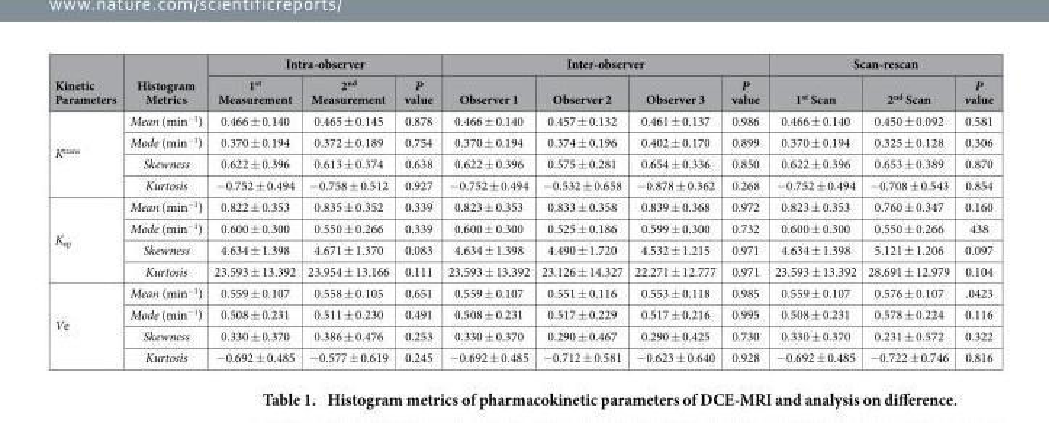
<table><thead><tr><td rowspan="2">Kinetic Parameters</td><td rowspan="2">Histogram Metrics</td><td colspan="3">Intra-observer</td><td colspan="4">Inter-observer</td><td colspan="3">Scan-rescan</td></tr><tr><td>1<sup>st</sup> Measurement</td><td>2<sup>nd</sup> Measurement</td><td>P value</td><td>Observer 1</td><td>Observer 2</td><td>Observer 3</td><td>P value</td><td>1<sup>st</sup> Scan</td><td>2<sup>nd</sup> Scan</td><td>P value</td></tr></thead><tbody><tr><td rowspan="4">K<sup>trans</sup></td><td>Mean (min<sup>−1</sup>)</td><td>0.466 ± 0.140</td><td>0.465 ± 0.145</td><td>0.878</td><td>0.466 ± 0.140</td><td>0.457 ± 0.132</td><td>0.461 ± 0.137</td><td>0.986</td><td>0.466 ± 0.140</td><td>0.450 ± 0.092</td><td>0.581</td></tr><tr><td>Mode (min<sup>−1</sup>)</td><td>0.370 ± 0.194</td><td>0.372 ± 0.189</td><td>0.754</td><td>0.370 ± 0.194</td><td>0.374 ± 0.196</td><td>0.402 ± 0.170</td><td>0.899</td><td>0.370 ± 0.194</td><td>0.325 ± 0.128</td><td>0.306</td></tr><tr><td>Skewness</td><td>0.622 ± 0.396</td><td>0.613 ± 0.374</td><td>0.638</td><td>0.622 ± 0.396</td><td>0.575 ± 0.281</td><td>0.654 ± 0.336</td><td>0.850</td><td>0.622 ± 0.396</td><td>0.653 ± 0.389</td><td>0.870</td></tr><tr><td>Kurtosis</td><td>− 0.752 ± 0.494</td><td>− 0.758 ± 0.512</td><td>0.927</td><td>− 0.752 ± 0.494</td><td>− 0.532 ± 0.658</td><td>− 0.878 ± 0.362</td><td>0.268</td><td>− 0.752 ± 0.494</td><td>− 0.708 ± 0.543</td><td>0.854</td></tr><tr><td rowspan="4">K<sub>ep</sub></td><td>Mean (min<sup>−1</sup>)</td><td>0.822 ± 0.353</td><td>0.835 ± 0.352</td><td>0.339</td><td>0.823 ± 0.353</td><td>0.833 ± 0.358</td><td>0.839 ± 0.368</td><td>0.972</td><td>0.823 ± 0.353</td><td>0.760 ± 0.347</td><td>0.160</td></tr><tr><td>Mode (min<sup>−1</sup>)</td><td>0.600 ± 0.300</td><td>0.550 ± 0.266</td><td>0.339</td><td>0.600 ± 0.300</td><td>0.525 ± 0.186</td><td>0.599 ± 0.300</td><td>0.732</td><td>0.600 ± 0.300</td><td>0.550 ± 0.266</td><td>438</td></tr><tr><td>Skewness</td><td>4.634 ± 1.398</td><td>4.671 ± 1.370</td><td>0.083</td><td>4.634 ± 1.398</td><td>4.490 ± 1.720</td><td>4.532 ± 1.215</td><td>0.971</td><td>4.634 ± 1.398</td><td>5.121 ± 1.206</td><td>0.097</td></tr><tr><td>Kurtosis</td><td>23.593 ± 13.392</td><td>23.954 ± 13.166</td><td>0.111</td><td>23.593 ± 13.392</td><td>23.126 ± 14.327</td><td>22.271 ± 12.777</td><td>0.971</td><td>23.593 ± 13.392</td><td>28.691 ± 12.979</td><td>0.104</td></tr><tr><td rowspan="4">Ve</td><td>Mean (min<sup>−1</sup>)</td><td>0.559 ± 0.107</td><td>0.558 ± 0.105</td><td>0.651</td><td>0.559 ± 0.107</td><td>0.551 ± 0.116</td><td>0.553 ± 0.118</td><td>0.985</td><td>0.559 ± 0.107</td><td>0.576 ± 0.107</td><td>.0423</td></tr><tr><td>Mode (min<sup>−1</sup>)</td><td>0.508 ± 0.231</td><td>0.511 ± 0.230</td><td>0.491</td><td>0.508 ± 0.231</td><td>0.517 ± 0.229</td><td>0.517 ± 0.216</td><td>0.995</td><td>0.508 ± 0.231</td><td>0.578 ± 0.224</td><td>0.116</td></tr><tr><td>Skewness</td><td>0.330 ± 0.370</td><td>0.386 ± 0.476</td><td>0.253</td><td>0.330 ± 0.370</td><td>0.290 ± 0.467</td><td>0.290 ± 0.425</td><td>0.730</td><td>0.330 ± 0.370</td><td>0.231 ± 0.572</td><td>0.322</td></tr><tr><td>Kurtosis</td><td>− 0.692 ± 0.485</td><td>− 0.577 ± 0.619</td><td>0.245</td><td>− 0.692 ± 0.485</td><td>− 0.712 ± 0.581</td><td>− 0.623 ± 0.640</td><td>0.928</td><td>− 0.692 ± 0.485</td><td>− 0.722 ± 0.746</td><td>0.816</td></tr></tbody></table>